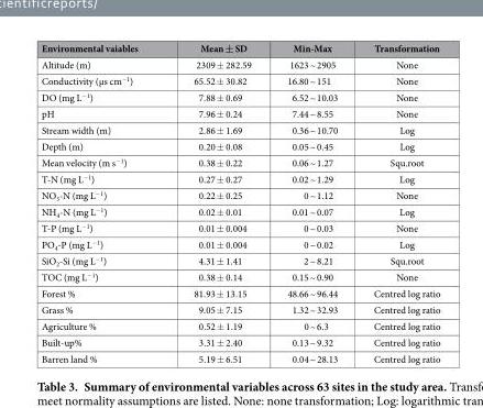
<table><thead><tr><td>Environmental vaiables</td><td>Mean ± SD</td><td>Min-Max</td><td>Transformation</td></tr></thead><tbody><tr><td>Altitude (m)</td><td>2309 ± 282.59</td><td>1623 ~ 2905</td><td>None</td></tr><tr><td>Conductivity (μs cm<sup>−1</sup>)</td><td>65.52 ± 30.82</td><td>16.80 ~ 151</td><td>None</td></tr><tr><td>DO (mg L<sup>−1</sup>)</td><td>7.88 ± 0.69</td><td>6.52 ~ 10.03</td><td>None</td></tr><tr><td>pH</td><td>7.96 ± 0.24</td><td>7.44 ~ 8.55</td><td>None</td></tr><tr><td>Stream width (m)</td><td>2.86 ± 1.69</td><td>0.36 ~ 10.70</td><td>Log</td></tr><tr><td>Depth (m)</td><td>0.20 ± 0.08</td><td>0.05 ~ 0.45</td><td>Log</td></tr><tr><td>Mean velocity (m s<sup>−1</sup>)</td><td>0.38 ± 0.22</td><td>0.06 ~ 1.27</td><td>Squ.root</td></tr><tr><td>T-N (mg L<sup>−1</sup>)</td><td>0.27 ± 0.27</td><td>0.02 ~ 1.29</td><td>Log</td></tr><tr><td>NO<sub>3</sub>-N (mg L<sup>−1</sup>)</td><td>0.22 ± 0.25</td><td>0 ~ 1.12</td><td>None</td></tr><tr><td>NH<sub>4</sub>-N (mg L<sup>−1</sup>)</td><td>0.02 ± 0.01</td><td>0.01 ~ 0.07</td><td>Log</td></tr><tr><td>T-P (mg L<sup>−1</sup>)</td><td>0.01 ± 0.004</td><td>0 ~ 0.03</td><td>None</td></tr><tr><td>PO<sub>4</sub>-P (mg L<sup>−1</sup>)</td><td>0.01 ± 0.004</td><td>0 ~ 0.02</td><td>Log</td></tr><tr><td>SiO<sub>2</sub>-Si (mg L<sup>−1</sup>)</td><td>4.31 ± 1.41</td><td>2 ~ 8.21</td><td>Squ.root</td></tr><tr><td>TOC (mg L<sup>−1</sup>)</td><td>0.38 ± 0.14</td><td>0.15 ~ 0.90</td><td>None</td></tr><tr><td>Forest %</td><td>81.93 ± 13.15</td><td>48.66 ~ 96.44</td><td>Centred log ratio</td></tr><tr><td>Grass %</td><td>9.05 ± 7.15</td><td>1.32 ~ 32.93</td><td>Centred log ratio</td></tr><tr><td>Agriculture %</td><td>0.52 ± 1.19</td><td>0 ~ 6.3</td><td>Centred log ratio</td></tr><tr><td>Built-up%</td><td>3.31 ± 2.40</td><td>0.13 ~ 9.32</td><td>Centred log ratio</td></tr><tr><td>Barren land %</td><td>5.19 ± 6.51</td><td>0.04 ~ 28.13</td><td>Centred log ratio</td></tr></tbody></table>